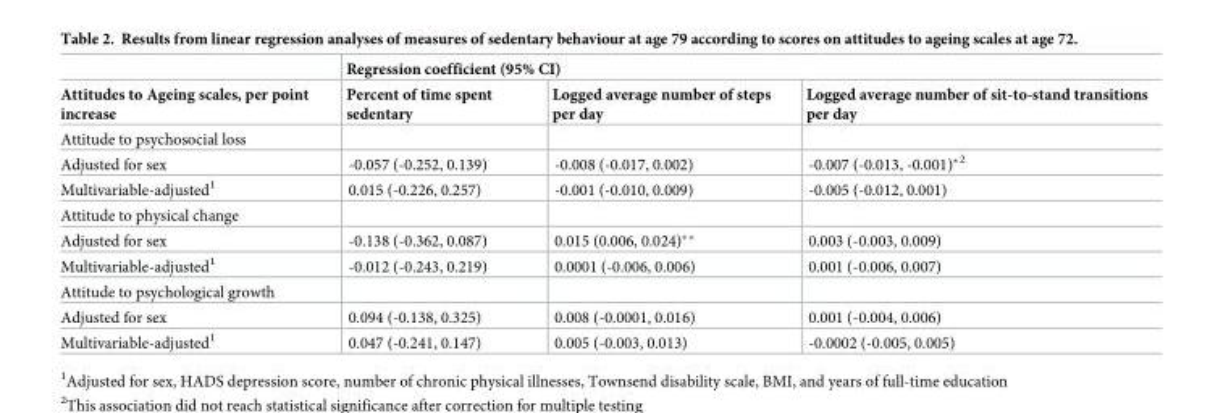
<table><thead><tr><td rowspan="2">Attitudes to Ageing scales, per point increase</td><td colspan="3">Regression coefficient (95% CI)</td></tr><tr><td>Percent of time spent sedentary</td><td>Logged average number of steps per day</td><td>Logged average number of sit-to-stand transitions per day</td></tr></thead><tbody><tr><td colspan="4">Attitude to psychosocial loss</td></tr><tr><td>Adjusted for sex</td><td>-0.057 (-0.252, 0.139)</td><td>-0.008 (-0.017, 0.002)</td><td>-0.007 (-0.013, -0.001)*<sup>2</sup></td></tr><tr><td>Multivariable-adjusted<sup>1</sup></td><td>0.015 (-0.226, 0.257)</td><td>-0.001 (-0.010, 0.009)</td><td>-0.005 (-0.012, 0.001)</td></tr><tr><td colspan="4">Attitude to physical change</td></tr><tr><td>Adjusted for sex</td><td>-0.138 (-0.362, 0.087)</td><td>0.015 (0.006, 0.024)**</td><td>0.003 (-0.003, 0.009)</td></tr><tr><td>Multivariable-adjusted<sup>1</sup></td><td>-0.012 (-0.243, 0.219)</td><td>0.0001 (-0.006, 0.006)</td><td>0.001 (-0.006, 0.007)</td></tr><tr><td colspan="4">Attitude to psychological growth</td></tr><tr><td>Adjusted for sex</td><td>0.094 (-0.138, 0.325)</td><td>0.008 (-0.0001, 0.016)</td><td>0.001 (-0.004, 0.006)</td></tr><tr><td>Multivariable-adjusted<sup>1</sup></td><td>0.047 (-0.241, 0.147)</td><td>0.005 (-0.003, 0.013)</td><td>-0.0002 (-0.005, 0.005)</td></tr></tbody></table>